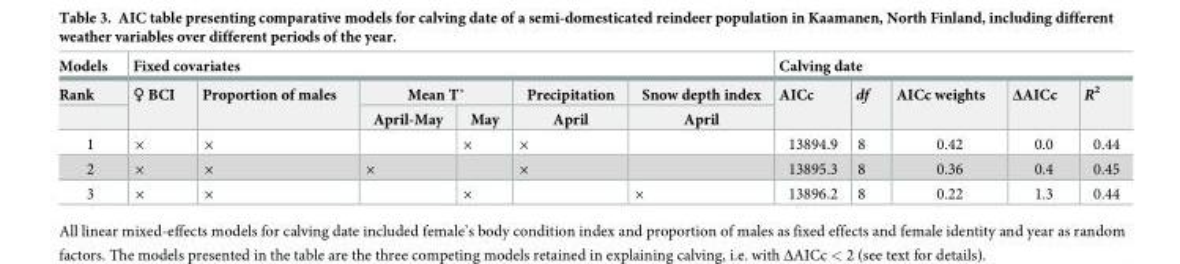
<table><thead><tr><td rowspan="3">Models Rank</td><td colspan="6">Fixed covariates</td><td colspan="5">Calving date</td></tr><tr><td rowspan="2">♀ BCI</td><td rowspan="2">Proportion of males</td><td colspan="2">Mean T˚</td><td rowspan="2">Precipitation April</td><td rowspan="2">Snow depth index April</td><td rowspan="2">AICc</td><td rowspan="2">df</td><td rowspan="2">AICc weights</td><td rowspan="2">ΔAICc</td><td rowspan="2">R<sup>2</sup></td></tr><tr><td>April-May</td><td>May</td></tr></thead><tbody><tr><td>1</td><td>×</td><td>×</td><td></td><td>×</td><td>×</td><td></td><td>13894.9</td><td>8</td><td>0.42</td><td>0.0</td><td>0.44</td></tr><tr><td>2</td><td>×</td><td>×</td><td>×</td><td></td><td>×</td><td></td><td>13895.3</td><td>8</td><td>0.36</td><td>0.4</td><td>0.45</td></tr><tr><td>3</td><td>×</td><td>×</td><td></td><td>×</td><td></td><td>×</td><td>13896.2</td><td>8</td><td>0.22</td><td>1.3</td><td>0.44</td></tr></tbody></table>